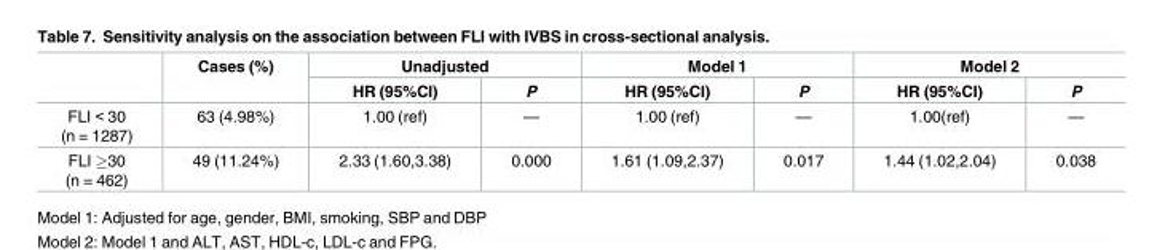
<table><thead><tr><td rowspan="2"></td><td rowspan="2">Cases (%)</td><td colspan="2">Unadjusted</td><td colspan="2">Model 1</td><td colspan="2">Model 2</td></tr><tr><td>HR (95%CI)</td><td>P</td><td>HR (95%CI)</td><td>P</td><td>HR (95%CI)</td><td>P</td></tr></thead><tbody><tr><td>FLI &lt; 30 (n = 1287)</td><td>63 (4.98%)</td><td>1.00 (ref)</td><td>—</td><td>1.00 (ref)</td><td>—</td><td>1.00(ref)</td><td>—</td></tr><tr><td>FLI ≥30 (n = 462)</td><td>49 (11.24%)</td><td>2.33 (1.60,3.38)</td><td>0.000</td><td>1.61 (1.09,2.37)</td><td>0.017</td><td>1.44 (1.02,2.04)</td><td>0.038</td></tr></tbody></table>